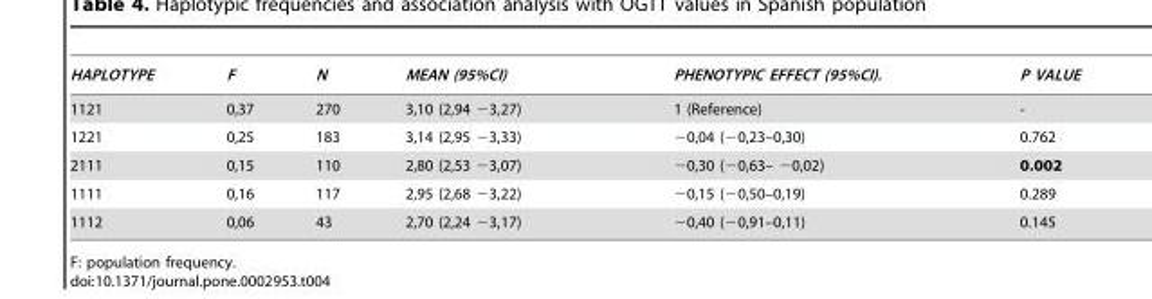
<table><thead><tr><td>HAPLOTYPE</td><td>F</td><td>N</td><td>MEAN (95%CI)</td><td>PHENOTYPIC EFFECT (95%CI).</td><td>P VALUE</td></tr></thead><tbody><tr><td>1121</td><td>0,37</td><td>270</td><td>3,10 (2,94 −3,27)</td><td>1 (Reference)</td><td>-</td></tr><tr><td>1221</td><td>0,25</td><td>183</td><td>3,14 (2,95 −3,33)</td><td>−0,04 (−0,23–0,30)</td><td>0.762</td></tr><tr><td>2111</td><td>0,15</td><td>110</td><td>2,80 (2,53 −3,07)</td><td>−0,30 (−0,63– −0,02)</td><td>0.002</td></tr><tr><td>1111</td><td>0,16</td><td>117</td><td>2,95 (2,68 −3,22)</td><td>−0,15 (−0,50–0,19)</td><td>0.289</td></tr><tr><td>1112</td><td>0,06</td><td>43</td><td>2,70 (2,24 −3,17)</td><td>−0,40 (−0,91–0,11)</td><td>0.145</td></tr></tbody></table>